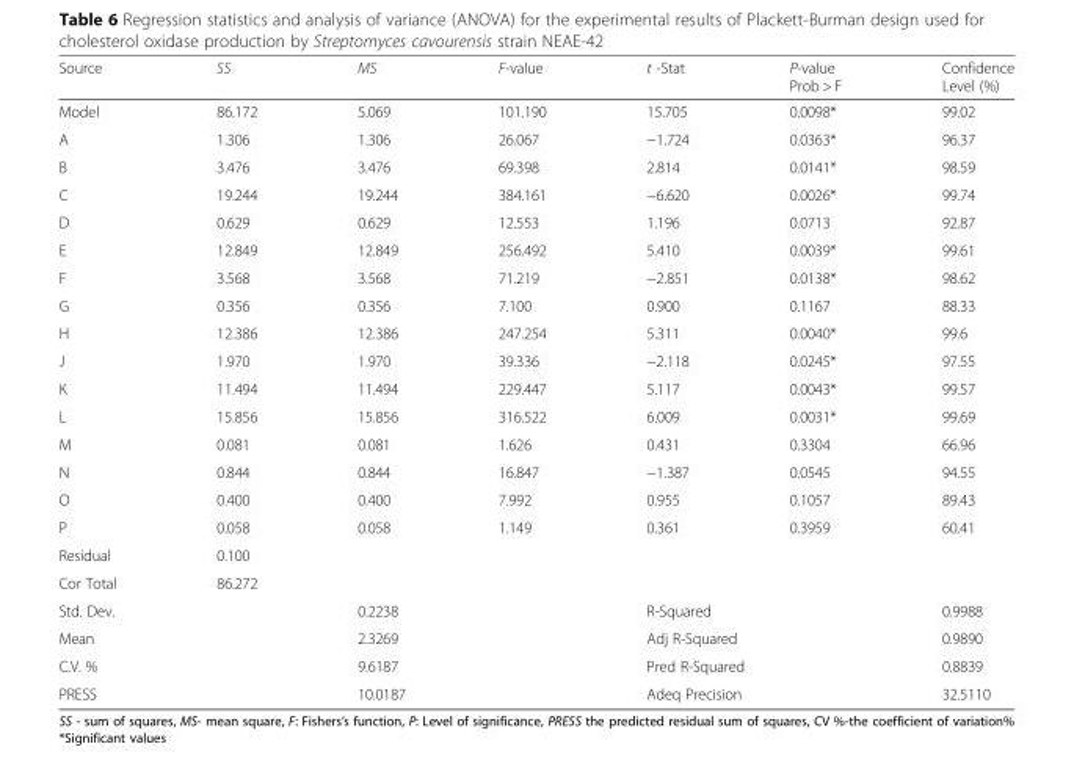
<table><thead><tr><td>Source</td><td>SS</td><td>MS</td><td>F-value</td><td>t -Stat</td><td>P-value Prob &gt; F</td><td>Confidence Level (%)</td></tr></thead><tbody><tr><td>Model</td><td>86.172</td><td>5.069</td><td>101.190</td><td>15.705</td><td>0.0098*</td><td>99.02</td></tr><tr><td>A</td><td>1.306</td><td>1.306</td><td>26.067</td><td>−1.724</td><td>0.0363*</td><td>96.37</td></tr><tr><td>B</td><td>3.476</td><td>3.476</td><td>69.398</td><td>2.814</td><td>0.0141*</td><td>98.59</td></tr><tr><td>C</td><td>19.244</td><td>19.244</td><td>384.161</td><td>−6.620</td><td>0.0026*</td><td>99.74</td></tr><tr><td>D</td><td>0.629</td><td>0.629</td><td>12.553</td><td>1.196</td><td>0.0713</td><td>92.87</td></tr><tr><td>E</td><td>12.849</td><td>12.849</td><td>256.492</td><td>5.410</td><td>0.0039*</td><td>99.61</td></tr><tr><td>F</td><td>3.568</td><td>3.568</td><td>71.219</td><td>−2.851</td><td>0.0138*</td><td>98.62</td></tr><tr><td>G</td><td>0.356</td><td>0.356</td><td>7.100</td><td>0.900</td><td>0.1167</td><td>88.33</td></tr><tr><td>H</td><td>12.386</td><td>12.386</td><td>247.254</td><td>5.311</td><td>0.0040*</td><td>99.6</td></tr><tr><td>J</td><td>1.970</td><td>1.970</td><td>39.336</td><td>−2.118</td><td>0.0245*</td><td>97.55</td></tr><tr><td>K</td><td>11.494</td><td>11.494</td><td>229.447</td><td>5.117</td><td>0.0043*</td><td>99.57</td></tr><tr><td>L</td><td>15.856</td><td>15.856</td><td>316.522</td><td>6.009</td><td>0.0031*</td><td>99.69</td></tr><tr><td>M</td><td>0.081</td><td>0.081</td><td>1.626</td><td>0.431</td><td>0.3304</td><td>66.96</td></tr><tr><td>N</td><td>0.844</td><td>0.844</td><td>16.847</td><td>−1.387</td><td>0.0545</td><td>94.55</td></tr><tr><td>O</td><td>0.400</td><td>0.400</td><td>7.992</td><td>0.955</td><td>0.1057</td><td>89.43</td></tr><tr><td>P</td><td>0.058</td><td>0.058</td><td>1.149</td><td>0.361</td><td>0.3959</td><td>60.41</td></tr><tr><td>Residual</td><td>0.100</td><td></td><td></td><td></td><td></td><td></td></tr><tr><td>Cor Total</td><td>86.272</td><td></td><td></td><td></td><td></td><td></td></tr><tr><td colspan="2">Std. Dev.</td><td colspan="2">0.2238</td><td colspan="2">R-Squared</td><td>0.9988</td></tr><tr><td colspan="2">Mean</td><td colspan="2">2.3269</td><td colspan="2">Adj R-Squared</td><td>0.9890</td></tr><tr><td colspan="2">C.V. %</td><td colspan="2">9.6187</td><td colspan="2">Pred R-Squared</td><td>0.8839</td></tr><tr><td colspan="2">PRESS</td><td colspan="2">10.0187</td><td colspan="2">Adeq Precision</td><td>32.5110</td></tr></tbody></table>